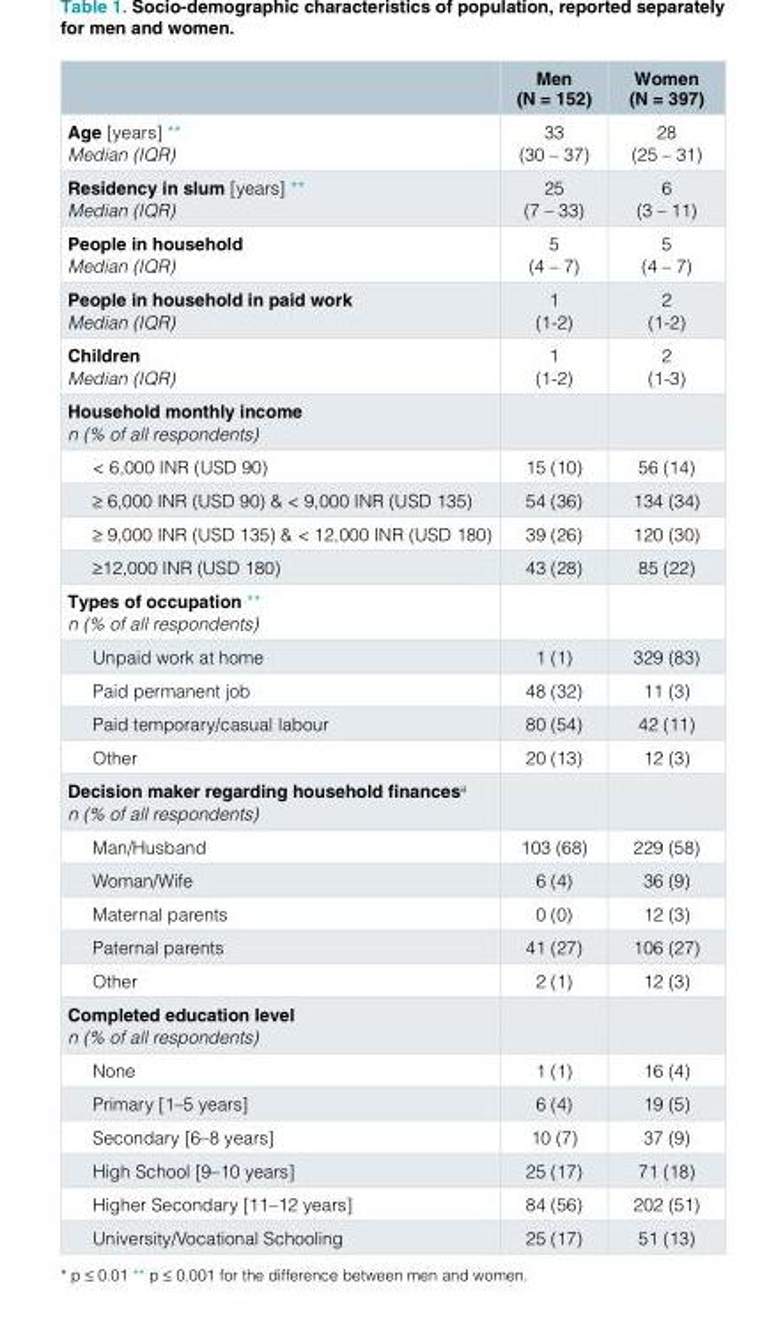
<table><thead><tr><td></td><td>Men (N = 152)</td><td>Women (N = 397)</td></tr></thead><tbody><tr><td>Age [years] ** Median (IQR)</td><td>33 (30 – 37)</td><td>28 (25 – 31)</td></tr><tr><td>Residency in slum [years] ** Median (IQR)</td><td>25 (7 – 33)</td><td>6 (3 – 11)</td></tr><tr><td>People in household Median (IQR)</td><td>5 (4 – 7)</td><td>5 (4 – 7)</td></tr><tr><td>People in household in paid work Median (IQR)</td><td>1 (1-2)</td><td>2 (1-2)</td></tr><tr><td>Children Median (IQR)</td><td>1 (1-2)</td><td>2 (1-3)</td></tr><tr><td colspan="3">Household monthly income n (% of all respondents)</td></tr><tr><td>&lt; 6,000 INR (USD 90)</td><td>15 (10)</td><td>56 (14)</td></tr><tr><td>≥ 6,000 INR (USD 90) &amp; &lt; 9,000 INR (USD 135)</td><td>54 (36)</td><td>134 (34)</td></tr><tr><td>≥ 9,000 INR (USD 135) &amp; &lt; 12,000 INR (USD 180)</td><td>39 (26)</td><td>120 (30)</td></tr><tr><td>≥12,000 INR (USD 180)</td><td>43 (28)</td><td>85 (22)</td></tr><tr><td colspan="3">Types of occupation ** n (% of all respondents)</td></tr><tr><td>Unpaid work at home</td><td>1 (1)</td><td>329 (83)</td></tr><tr><td>Paid permanent job</td><td>48 (32)</td><td>11 (3)</td></tr><tr><td>Paid temporary/casual labour</td><td>80 (54)</td><td>42 (11)</td></tr><tr><td>Other</td><td>20 (13)</td><td>12 (3)</td></tr><tr><td colspan="3">Decision maker regarding household finances<sup>a</sup> n (% of all respondents)</td></tr><tr><td>Man/Husband</td><td>103 (68)</td><td>229 (58)</td></tr><tr><td>Woman/Wife</td><td>6 (4)</td><td>36 (9)</td></tr><tr><td>Maternal parents</td><td>0 (0)</td><td>12 (3)</td></tr><tr><td>Paternal parents</td><td>41 (27)</td><td>106 (27)</td></tr><tr><td>Other</td><td>2 (1)</td><td>12 (3)</td></tr><tr><td colspan="3">Completed education level n (% of all respondents)</td></tr><tr><td>None</td><td>1 (1)</td><td>16 (4)</td></tr><tr><td>Primary [1–5 years]</td><td>6 (4)</td><td>19 (5)</td></tr><tr><td>Secondary [6–8 years]</td><td>10 (7)</td><td>37 (9)</td></tr><tr><td>High School [9–10 years]</td><td>25 (17)</td><td>71 (18)</td></tr><tr><td>Higher Secondary [11–12 years]</td><td>84 (56)</td><td>202 (51)</td></tr><tr><td>University/Vocational Schooling</td><td>25 (17)</td><td>51 (13)</td></tr></tbody></table>